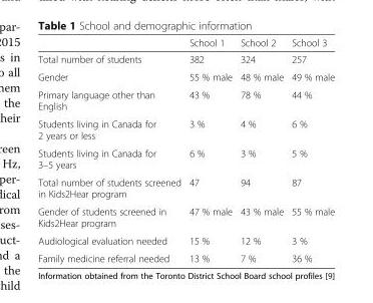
<table><thead><tr><td></td><td>School 1</td><td>School 2</td><td>School 3</td></tr></thead><tbody><tr><td>Total number of students</td><td>382</td><td>324</td><td>257</td></tr><tr><td>Gender</td><td>55 % male</td><td>48 % male</td><td>49 % male</td></tr><tr><td>Primary language other than English</td><td>43 %</td><td>78 %</td><td>44 %</td></tr><tr><td>Students living in Canada for 2 years or less</td><td>3 %</td><td>4 %</td><td>6 %</td></tr><tr><td>Students living in Canada for 3–5 years</td><td>6 %</td><td>3 %</td><td>5 %</td></tr><tr><td>Total number of students screened in Kids2Hear program</td><td>47</td><td>94</td><td>87</td></tr><tr><td>Gender of students screened in Kids2Hear program</td><td>47 % male</td><td>43 % male</td><td>55 % male</td></tr><tr><td>Audiological evaluation needed</td><td>15 %</td><td>12 %</td><td>3 %</td></tr><tr><td>Family medicine referral needed</td><td>13 %</td><td>7 %</td><td>36 %</td></tr></tbody></table>